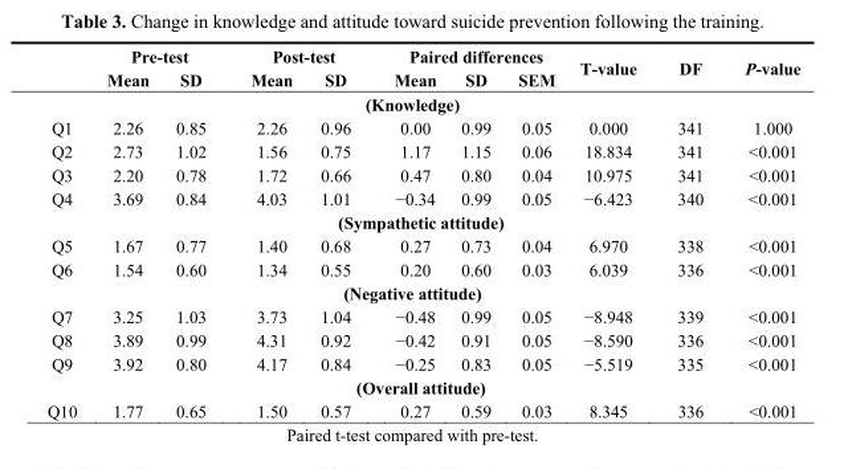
<table><thead><tr><td rowspan="2"></td><td colspan="2">Pre-test</td><td colspan="2">Post-test</td><td colspan="3">Paired differences</td><td rowspan="2">T-value</td><td rowspan="2">DF</td><td rowspan="2">P-value</td></tr><tr><td>Mean</td><td>SD</td><td>Mean</td><td>SD</td><td>Mean</td><td>SD</td><td>SEM</td></tr></thead><tbody><tr><td colspan="11">(Knowledge)</td></tr><tr><td>Q1</td><td>2.26</td><td>0.85</td><td>2.26</td><td>0.96</td><td>0.00</td><td>0.99</td><td>0.05</td><td>0.000</td><td>341</td><td>1.000</td></tr><tr><td>Q2</td><td>2.73</td><td>1.02</td><td>1.56</td><td>0.75</td><td>1.17</td><td>1.15</td><td>0.06</td><td>18.834</td><td>341</td><td>&lt;0.001</td></tr><tr><td>Q3</td><td>2.20</td><td>0.78</td><td>1.72</td><td>0.66</td><td>0.47</td><td>0.80</td><td>0.04</td><td>10.975</td><td>341</td><td>&lt;0.001</td></tr><tr><td>Q4</td><td>3.69</td><td>0.84</td><td>4.03</td><td>1.01</td><td>−0.34</td><td>0.99</td><td>0.05</td><td>−6.423</td><td>340</td><td>&lt;0.001</td></tr><tr><td colspan="11">(Sympathetic attitude)</td></tr><tr><td>Q5</td><td>1.67</td><td>0.77</td><td>1.40</td><td>0.68</td><td>0.27</td><td>0.73</td><td>0.04</td><td>6.970</td><td>338</td><td>&lt;0.001</td></tr><tr><td>Q6</td><td>1.54</td><td>0.60</td><td>1.34</td><td>0.55</td><td>0.20</td><td>0.60</td><td>0.03</td><td>6.039</td><td>336</td><td>&lt;0.001</td></tr><tr><td colspan="11">(Negative attitude)</td></tr><tr><td>Q7</td><td>3.25</td><td>1.03</td><td>3.73</td><td>1.04</td><td>−0.48</td><td>0.99</td><td>0.05</td><td>−8.948</td><td>339</td><td>&lt;0.001</td></tr><tr><td>Q8</td><td>3.89</td><td>0.99</td><td>4.31</td><td>0.92</td><td>−0.42</td><td>0.91</td><td>0.05</td><td>−8.590</td><td>336</td><td>&lt;0.001</td></tr><tr><td>Q9</td><td>3.92</td><td>0.80</td><td>4.17</td><td>0.84</td><td>−0.25</td><td>0.83</td><td>0.05</td><td>−5.519</td><td>335</td><td>&lt;0.001</td></tr><tr><td colspan="11">(Overall attitude)</td></tr><tr><td>Q10</td><td>1.77</td><td>0.65</td><td>1.50</td><td>0.57</td><td>0.27</td><td>0.59</td><td>0.03</td><td>8.345</td><td>336</td><td>&lt;0.001</td></tr></tbody></table>